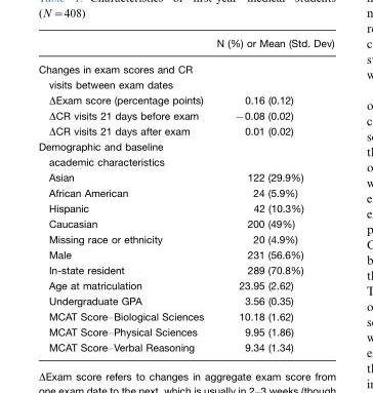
<table><thead><tr><td></td><td>N (%) or Mean (Std. Dev)</td></tr></thead><tbody><tr><td colspan="2">Changes in exam scores and CR visits between exam dates</td></tr><tr><td>ΔExam score (percentage points)</td><td>0.16 (0.12)</td></tr><tr><td>ΔCR visits 21 days before exam</td><td>−0.08 (0.02)</td></tr><tr><td>ΔCR visits 21 days after exam</td><td>0.01 (0.02)</td></tr><tr><td colspan="2">Demographic and baseline academic characteristics</td></tr><tr><td>Asian</td><td>122 (29.9%)</td></tr><tr><td>African American</td><td>24 (5.9%)</td></tr><tr><td>Hispanic</td><td>42 (10.3%)</td></tr><tr><td>Caucasian</td><td>200 (49%)</td></tr><tr><td>Missing race or ethnicity</td><td>20 (4.9%)</td></tr><tr><td>Male</td><td>231 (56.6%)</td></tr><tr><td>In-state resident</td><td>289 (70.8%)</td></tr><tr><td>Age at matriculation</td><td>23.95 (2.62)</td></tr><tr><td>Undergraduate GPA</td><td>3.56 (0.35)</td></tr><tr><td>MCAT Score–Biological Sciences</td><td>10.18 (1.62)</td></tr><tr><td>MCAT Score–Physical Sciences</td><td>9.95 (1.86)</td></tr><tr><td>MCAT Score–Verbal Reasoning</td><td>9.34 (1.34)</td></tr></tbody></table>